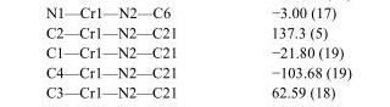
<table><tbody><tr><td>C1—Cr1—N2—C21</td><td>−21.80 (19)</td></tr></tbody></table>